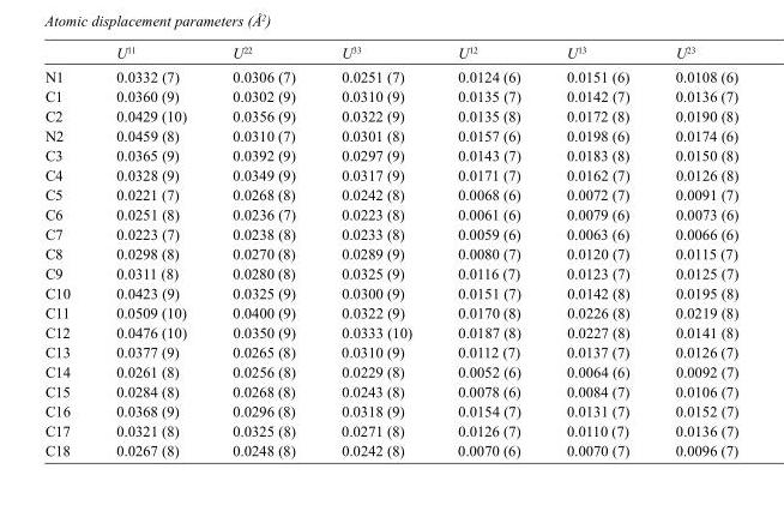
<table><thead><tr><td></td><td>U<sup>11</sup></td><td>U<sup>22</sup></td><td>U<sup>33</sup></td><td>U<sup>12</sup></td><td>U<sup>13</sup></td><td>U<sup>23</sup></td></tr></thead><tbody><tr><td>N1</td><td>0.0332 (7)</td><td>0.0306 (7)</td><td>0.0251 (7)</td><td>0.0124 (6)</td><td>0.0151 (6)</td><td>0.0108 (6)</td></tr><tr><td>C1</td><td>0.0360 (9)</td><td>0.0302 (9)</td><td>0.0310 (9)</td><td>0.0135 (7)</td><td>0.0142 (7)</td><td>0.0136 (7)</td></tr><tr><td>C2</td><td>0.0429 (10)</td><td>0.0356 (9)</td><td>0.0322 (9)</td><td>0.0135 (8)</td><td>0.0172 (8)</td><td>0.0190 (8)</td></tr><tr><td>N2</td><td>0.0459 (8)</td><td>0.0310 (7)</td><td>0.0301 (8)</td><td>0.0157 (6)</td><td>0.0198 (6)</td><td>0.0174 (6)</td></tr><tr><td>C3</td><td>0.0365 (9)</td><td>0.0392 (9)</td><td>0.0297 (9)</td><td>0.0143 (7)</td><td>0.0183 (8)</td><td>0.0150 (8)</td></tr><tr><td>C4</td><td>0.0328 (9)</td><td>0.0349 (9)</td><td>0.0317 (9)</td><td>0.0171 (7)</td><td>0.0162 (7)</td><td>0.0126 (8)</td></tr><tr><td>C5</td><td>0.0221 (7)</td><td>0.0268 (8)</td><td>0.0242 (8)</td><td>0.0068 (6)</td><td>0.0072 (7)</td><td>0.0091 (7)</td></tr><tr><td>C6</td><td>0.0251 (8)</td><td>0.0236 (7)</td><td>0.0223 (8)</td><td>0.0061 (6)</td><td>0.0079 (6)</td><td>0.0073 (6)</td></tr><tr><td>C7</td><td>0.0223 (7)</td><td>0.0238 (8)</td><td>0.0233 (8)</td><td>0.0059 (6)</td><td>0.0063 (6)</td><td>0.0066 (6)</td></tr><tr><td>C8</td><td>0.0298 (8)</td><td>0.0270 (8)</td><td>0.0289 (9)</td><td>0.0080 (7)</td><td>0.0120 (7)</td><td>0.0115 (7)</td></tr><tr><td>C9</td><td>0.0311 (8)</td><td>0.0280 (8)</td><td>0.0325 (9)</td><td>0.0116 (7)</td><td>0.0123 (7)</td><td>0.0125 (7)</td></tr><tr><td>C10</td><td>0.0423 (9)</td><td>0.0325 (9)</td><td>0.0300 (9)</td><td>0.0151 (7)</td><td>0.0142 (8)</td><td>0.0195 (8)</td></tr><tr><td>C11</td><td>0.0509 (10)</td><td>0.0400 (9)</td><td>0.0322 (9)</td><td>0.0170 (8)</td><td>0.0226 (8)</td><td>0.0219 (8)</td></tr><tr><td>C12</td><td>0.0476 (10)</td><td>0.0350 (9)</td><td>0.0333 (10)</td><td>0.0187 (8)</td><td>0.0227 (8)</td><td>0.0141 (8)</td></tr><tr><td>C13</td><td>0.0377 (9)</td><td>0.0265 (8)</td><td>0.0310 (9)</td><td>0.0112 (7)</td><td>0.0137 (7)</td><td>0.0126 (7)</td></tr><tr><td>C14</td><td>0.0261 (8)</td><td>0.0256 (8)</td><td>0.0229 (8)</td><td>0.0052 (6)</td><td>0.0064 (6)</td><td>0.0092 (7)</td></tr><tr><td>C15</td><td>0.0284 (8)</td><td>0.0268 (8)</td><td>0.0243 (8)</td><td>0.0078 (6)</td><td>0.0084 (7)</td><td>0.0106 (7)</td></tr><tr><td>C16</td><td>0.0368 (9)</td><td>0.0296 (8)</td><td>0.0318 (9)</td><td>0.0154 (7)</td><td>0.0131 (7)</td><td>0.0152 (7)</td></tr><tr><td>C17</td><td>0.0321 (8)</td><td>0.0325 (8)</td><td>0.0271 (8)</td><td>0.0126 (7)</td><td>0.0110 (7)</td><td>0.0136 (7)</td></tr><tr><td>C18</td><td>0.0267 (8)</td><td>0.0248 (8)</td><td>0.0242 (8)</td><td>0.0070 (6)</td><td>0.0070 (7)</td><td>0.0096 (7)</td></tr></tbody></table>